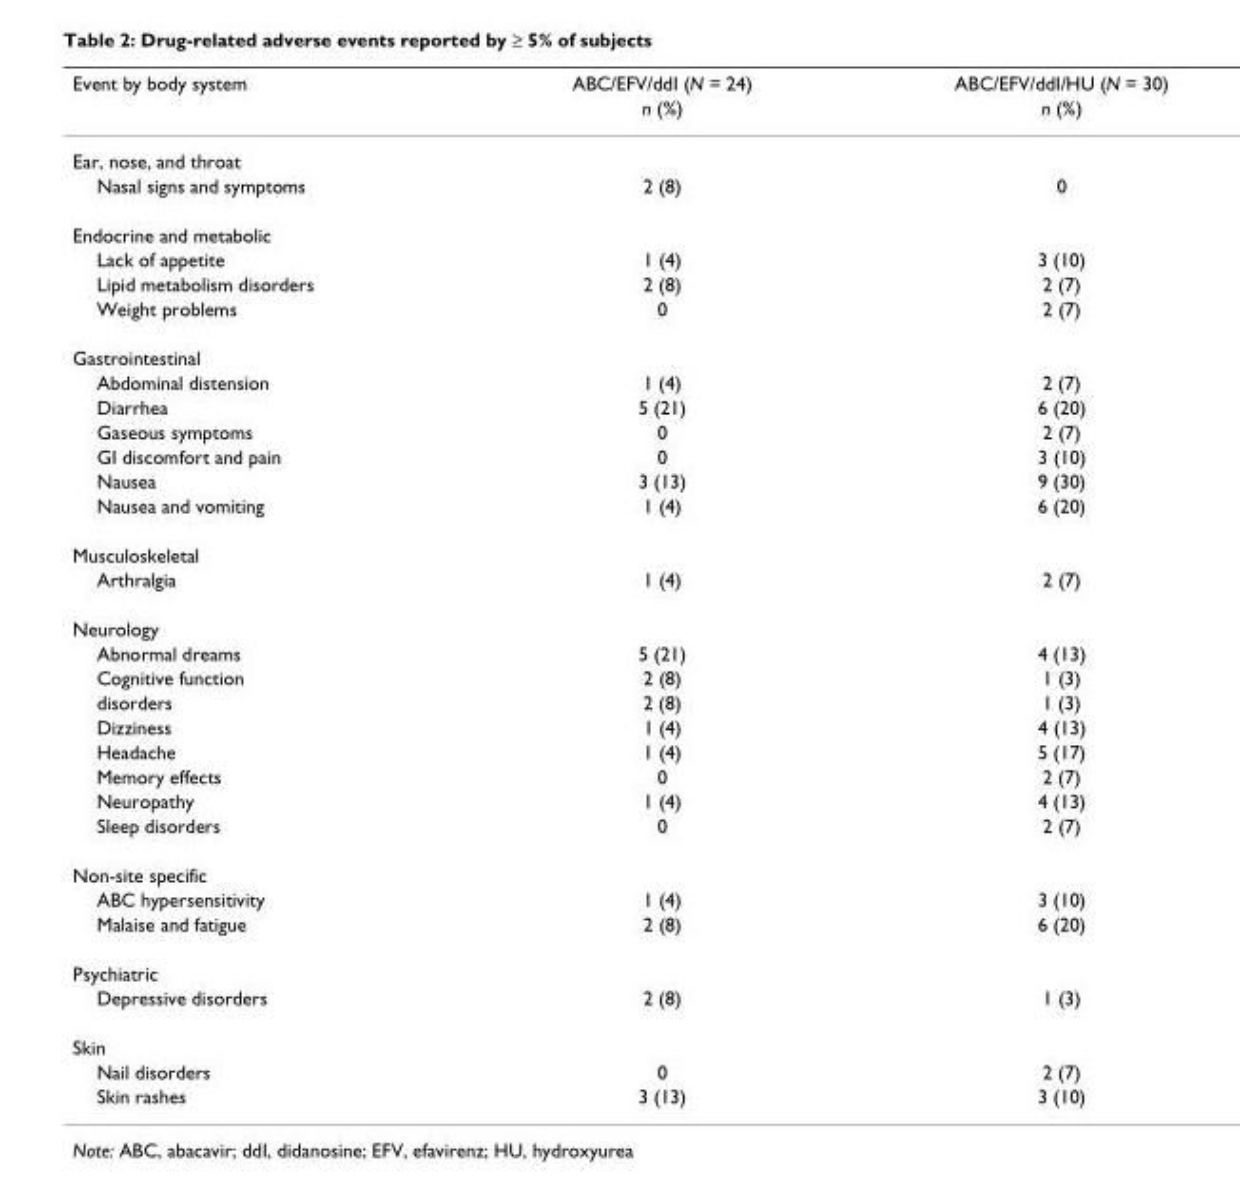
<table><thead><tr><td rowspan="2">Event by body system</td><td rowspan="2">ABC/EFV/ddI (N = 24) n (%)</td><td rowspan="2">ABC/EFV/ddI/HU (N = 30) n (%)</td></tr><tr></tr></thead><tbody><tr><td colspan="3">Ear, nose, and throat</td></tr><tr><td>Nasal signs and symptoms</td><td>2 (8)</td><td>0</td></tr><tr><td colspan="3">Endocrine and metabolic</td></tr><tr><td>Lack of appetite</td><td>1 (4)</td><td>3 (10)</td></tr><tr><td>Lipid metabolism disorders</td><td>2 (8)</td><td>2 (7)</td></tr><tr><td>Weight problems</td><td>0</td><td>2 (7)</td></tr><tr><td colspan="3">Gastrointestinal</td></tr><tr><td>Abdominal distension</td><td>1 (4)</td><td>2 (7)</td></tr><tr><td>Diarrhea</td><td>5 (21)</td><td>6 (20)</td></tr><tr><td>Gaseous symptoms</td><td>0</td><td>2 (7)</td></tr><tr><td>GI discomfort and pain</td><td>0</td><td>3 (10)</td></tr><tr><td>Nausea</td><td>3 (13)</td><td>9 (30)</td></tr><tr><td>Nausea and vomiting</td><td>1 (4)</td><td>6 (20)</td></tr><tr><td colspan="3">Musculoskeletal</td></tr><tr><td>Arthralgia</td><td>1 (4)</td><td>2 (7)</td></tr><tr><td colspan="3">Neurology</td></tr><tr><td>Abnormal dreams</td><td>5 (21)</td><td>4 (13)</td></tr><tr><td>Cognitive function</td><td>2 (8)</td><td>1 (3)</td></tr><tr><td>disorders</td><td>2 (8)</td><td>1 (3)</td></tr><tr><td>Dizziness</td><td>1 (4)</td><td>4 (13)</td></tr><tr><td>Headache</td><td>1 (4)</td><td>5 (17)</td></tr><tr><td>Memory effects</td><td>0</td><td>2 (7)</td></tr><tr><td>Neuropathy</td><td>1 (4)</td><td>4 (13)</td></tr><tr><td>Sleep disorders</td><td>0</td><td>2 (7)</td></tr><tr><td colspan="3">Non-site specific</td></tr><tr><td>ABC hypersensitivity</td><td>1 (4)</td><td>3 (10)</td></tr><tr><td>Malaise and fatigue</td><td>2 (8)</td><td>6 (20)</td></tr><tr><td colspan="3">Psychiatric</td></tr><tr><td>Depressive disorders</td><td>2 (8)</td><td>1 (3)</td></tr><tr><td colspan="3">Skin</td></tr><tr><td>Nail disorders</td><td>0</td><td>2 (7)</td></tr><tr><td>Skin rashes</td><td>3 (13)</td><td>3 (10)</td></tr></tbody></table>